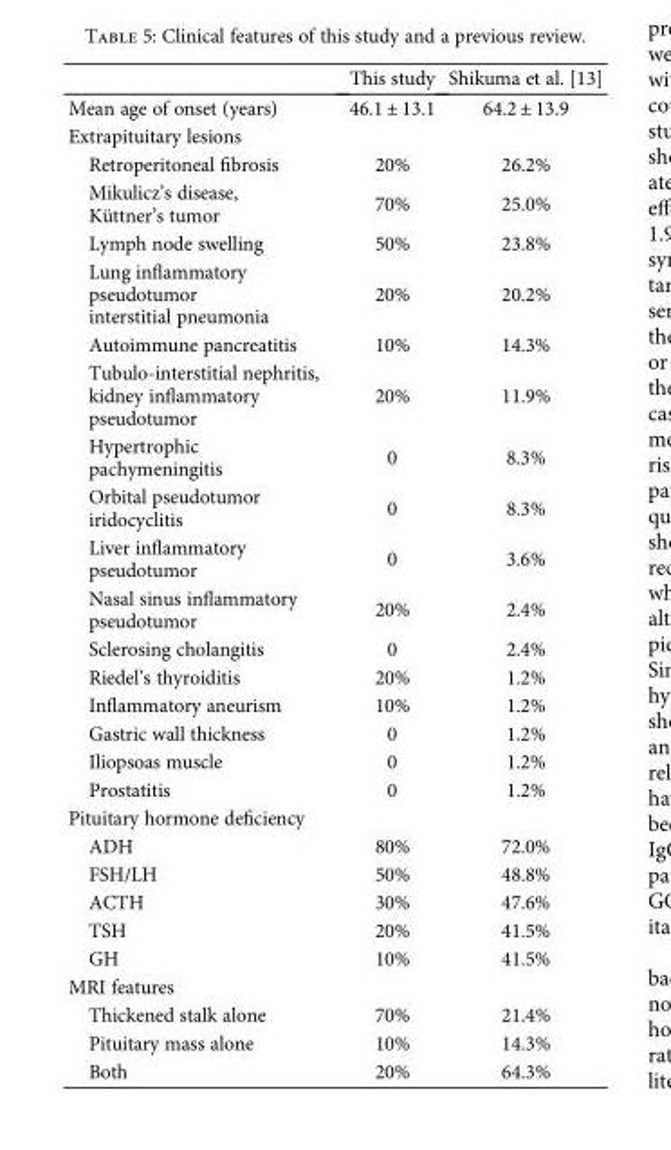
<table><thead><tr><td></td><td>This study</td><td>Shikuma et al. [13]</td></tr></thead><tbody><tr><td>Mean age of onset (years)</td><td>46.1 ± 13.1</td><td>64.2 ± 13.9</td></tr><tr><td colspan="3">Extrapituitary lesions</td></tr><tr><td>Retroperitoneal fibrosis</td><td>20%</td><td>26.2%</td></tr><tr><td>Mikulicz’s disease, Küttner’s tumor</td><td>70%</td><td>25.0%</td></tr><tr><td>Lymph node swelling</td><td>50%</td><td>23.8%</td></tr><tr><td>Lung inflammatory pseudotumor interstitial pneumonia</td><td>20%</td><td>20.2%</td></tr><tr><td>Autoimmune pancreatitis</td><td>10%</td><td>14.3%</td></tr><tr><td>Tubulo-interstitial nephritis, kidney inflammatory pseudotumor</td><td>20%</td><td>11.9%</td></tr><tr><td>Hypertrophic pachymeningitis</td><td>0</td><td>8.3%</td></tr><tr><td>Orbital pseudotumor iridocyclitis</td><td>0</td><td>8.3%</td></tr><tr><td>Liver inflammatory pseudotumor</td><td>0</td><td>3.6%</td></tr><tr><td>Nasal sinus inflammatory pseudotumor</td><td>20%</td><td>2.4%</td></tr><tr><td>Sclerosing cholangitis</td><td>0</td><td>2.4%</td></tr><tr><td>Riedel’s thyroiditis</td><td>20%</td><td>1.2%</td></tr><tr><td>Inflammatory aneurism</td><td>10%</td><td>1.2%</td></tr><tr><td>Gastric wall thickness</td><td>0</td><td>1.2%</td></tr><tr><td>Iliopsoas muscle</td><td>0</td><td>1.2%</td></tr><tr><td>Prostatitis</td><td>0</td><td>1.2%</td></tr><tr><td colspan="3">Pituitary hormone deficiency</td></tr><tr><td>ADH</td><td>80%</td><td>72.0%</td></tr><tr><td>FSH/LH</td><td>50%</td><td>48.8%</td></tr><tr><td>ACTH</td><td>30%</td><td>47.6%</td></tr><tr><td>TSH</td><td>20%</td><td>41.5%</td></tr><tr><td>GH</td><td>10%</td><td>41.5%</td></tr><tr><td colspan="3">MRI features</td></tr><tr><td>Thickened stalk alone</td><td>70%</td><td>21.4%</td></tr><tr><td>Pituitary mass alone</td><td>10%</td><td>14.3%</td></tr><tr><td>Both</td><td>20%</td><td>64.3%</td></tr></tbody></table>